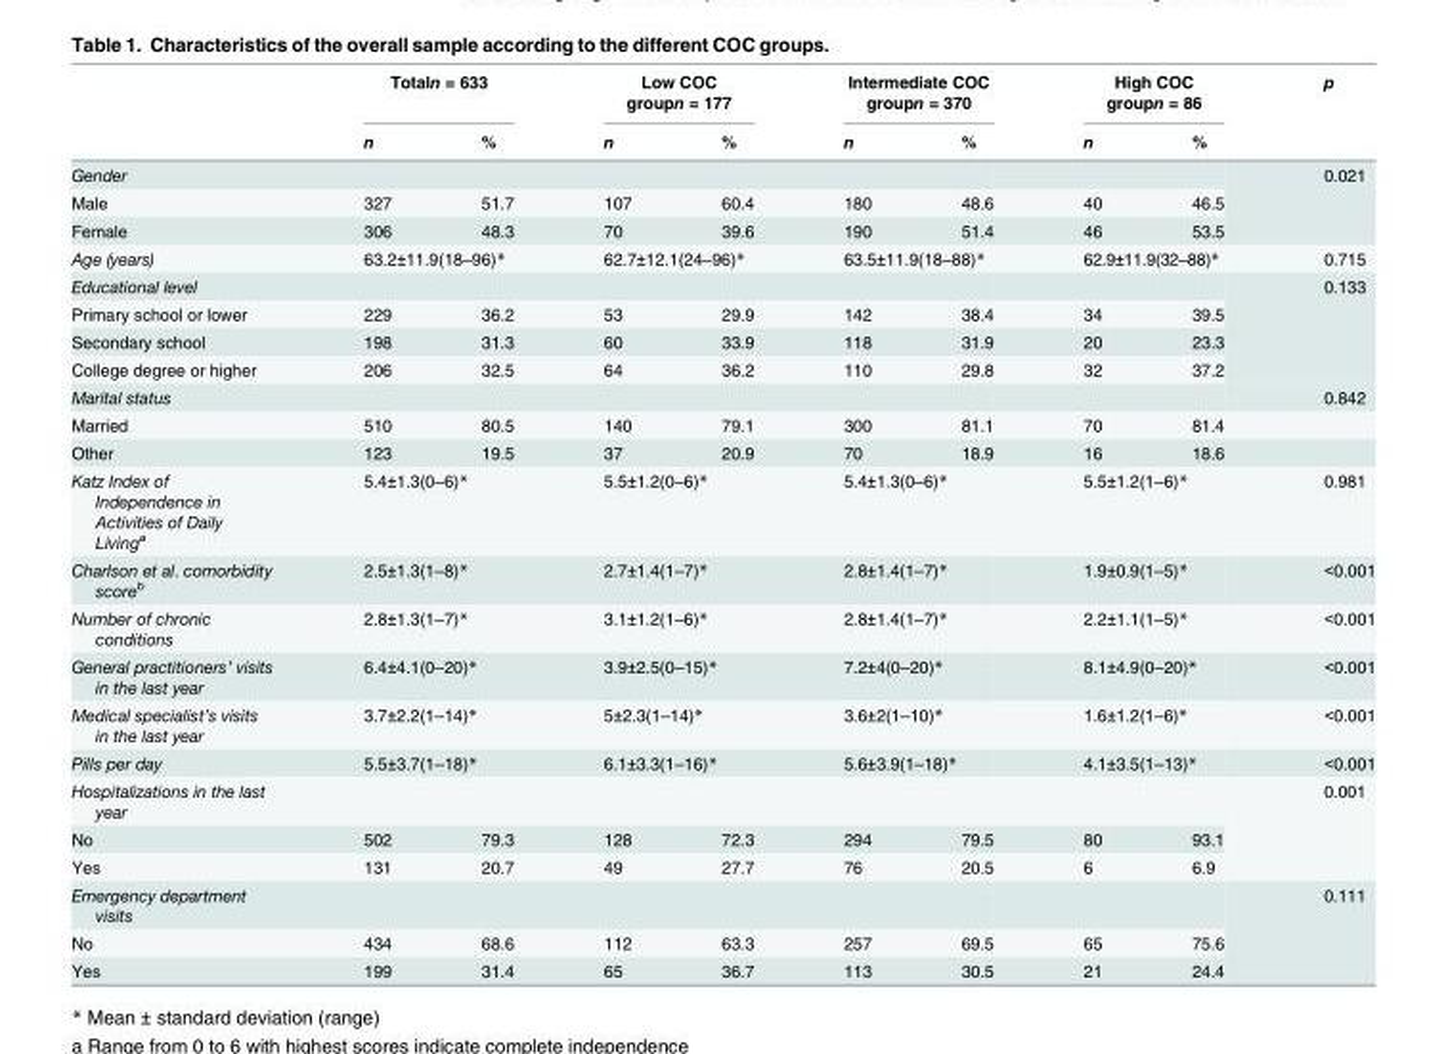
<table><thead><tr><td rowspan="2"></td><td colspan="2">Totaln = 633</td><td colspan="2">Low COC groupn = 177</td><td colspan="2">Intermediate COC groupn = 370</td><td colspan="2">High COC groupn = 86</td><td rowspan="2">p</td></tr><tr><td>n</td><td>%</td><td>n</td><td>%</td><td>n</td><td>%</td><td>n</td><td>%</td></tr></thead><tbody><tr><td colspan="9">Gender</td><td rowspan="3">0.021</td></tr><tr><td>Male</td><td>327</td><td>51.7</td><td>107</td><td>60.4</td><td>180</td><td>48.6</td><td>40</td><td>46.5</td></tr><tr><td>Female</td><td>306</td><td>48.3</td><td>70</td><td>39.6</td><td>190</td><td>51.4</td><td>46</td><td>53.5</td></tr><tr><td>Age (years)</td><td colspan="2">63.2±11.9(18–96)*</td><td colspan="2">62.7±12.1(24–96)*</td><td colspan="2">63.5±11.9(18–88)*</td><td colspan="2">62.9±11.9(32–88)*</td><td>0.715</td></tr><tr><td colspan="9">Educational level</td><td rowspan="4">0.133</td></tr><tr><td>Primary school or lower</td><td>229</td><td>36.2</td><td>53</td><td>29.9</td><td>142</td><td>38.4</td><td>34</td><td>39.5</td></tr><tr><td>Secondary school</td><td>198</td><td>31.3</td><td>60</td><td>33.9</td><td>118</td><td>31.9</td><td>20</td><td>23.3</td></tr><tr><td>College degree or higher</td><td>206</td><td>32.5</td><td>64</td><td>36.2</td><td>110</td><td>29.8</td><td>32</td><td>37.2</td></tr><tr><td>Marital status</td><td></td><td></td><td></td><td></td><td></td><td></td><td colspan="2"></td><td>0.842</td></tr><tr><td>Married</td><td>510</td><td>80.5</td><td>140</td><td>79.1</td><td>300</td><td>81.1</td><td>70</td><td>81.4</td><td></td></tr><tr><td>Other</td><td>123</td><td>19.5</td><td>37</td><td>20.9</td><td>70</td><td>18.9</td><td>16</td><td>18.6</td><td></td></tr><tr><td>Katz Index of Independence in Activities of Daily Living<sup>a</sup></td><td colspan="2">5.4±1.3(0–6)*</td><td colspan="2">5.5±1.2(0–6)*</td><td colspan="2">5.4±1.3(0–6)*</td><td colspan="2">5.5±1.2(1–6)*</td><td>0.981</td></tr><tr><td>Charlson et al. comorbidity score<sup>b</sup></td><td colspan="2">2.5±1.3(1–8)*</td><td colspan="2">2.7±1.4(1–7)*</td><td colspan="2">2.8±1.4(1–7)*</td><td colspan="2">1.9±0.9(1–5)*</td><td>&lt;0.001</td></tr><tr><td>Number of chronic conditions</td><td colspan="2">2.8±1.3(1–7)*</td><td colspan="2">3.1±1.2(1–6)*</td><td colspan="2">2.8±1.4(1–7)*</td><td colspan="2">2.2±1.1(1–5)*</td><td>&lt;0.001</td></tr><tr><td>General practitioners’ visits in the last year</td><td colspan="2">6.4±4.1(0–20)*</td><td colspan="2">3.9±2.5(0–15)*</td><td colspan="2">7.2±4(0–20)*</td><td colspan="2">8.1±4.9(0–20)*</td><td>&lt;0.001</td></tr><tr><td>Medical specialist’s visits in the last year</td><td colspan="2">3.7±2.2(1–14)*</td><td colspan="2">5±2.3(1–14)*</td><td colspan="2">3.6±2(1–10)*</td><td colspan="2">1.6±1.2(1–6)*</td><td>&lt;0.001</td></tr><tr><td>Pills per day</td><td colspan="2">5.5±3.7(1–18)*</td><td colspan="2">6.1±3.3(1–16)*</td><td colspan="2">5.6±3.9(1–18)*</td><td colspan="2">4.1±3.5(1–13)*</td><td>&lt;0.001</td></tr><tr><td colspan="9">Hospitalizations in the last year</td><td rowspan="3">0.001</td></tr><tr><td>No</td><td>502</td><td>79.3</td><td>128</td><td>72.3</td><td>294</td><td>79.5</td><td>80</td><td>93.1</td></tr><tr><td>Yes</td><td>131</td><td>20.7</td><td>49</td><td>27.7</td><td>76</td><td>20.5</td><td>6</td><td>6.9</td></tr><tr><td colspan="9">Emergency department visits</td><td rowspan="3">0.111</td></tr><tr><td>No</td><td>434</td><td>68.6</td><td>112</td><td>63.3</td><td>257</td><td>69.5</td><td>65</td><td>75.6</td></tr><tr><td>Yes</td><td>199</td><td>31.4</td><td>65</td><td>36.7</td><td>113</td><td>30.5</td><td>21</td><td>24.4</td></tr></tbody></table>